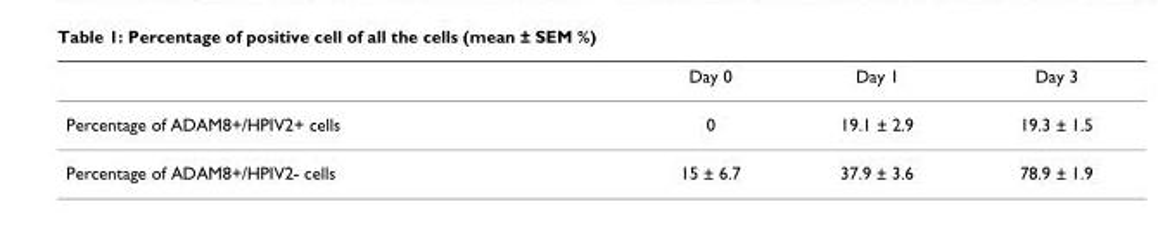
<table><thead><tr><td></td><td>Day 0</td><td>Day 1</td><td>Day 3</td></tr></thead><tbody><tr><td>Percentage of ADAM8+/HPIV2+ cells</td><td>0</td><td>19.1 ± 2.9</td><td>19.3 ± 1.5</td></tr><tr><td>Percentage of ADAM8+/HPIV2- cells</td><td>15 ± 6.7</td><td>37.9 ± 3.6</td><td>78.9 ± 1.9</td></tr></tbody></table>